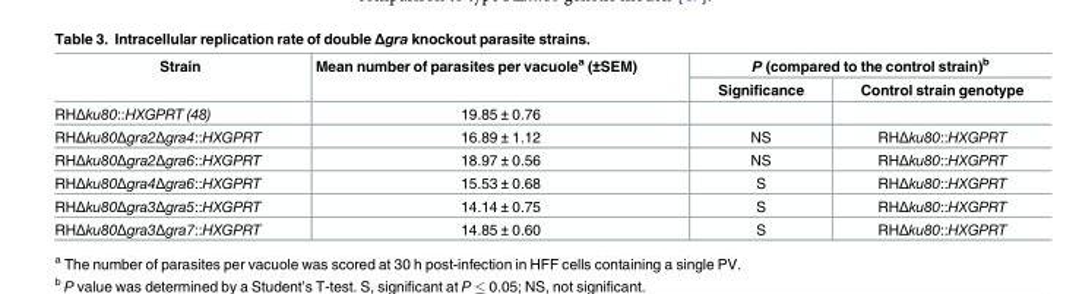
<table><thead><tr><td rowspan="2">Strain</td><td rowspan="2">Mean number of parasites per vacuole<sup>a</sup> (±SEM)</td><td colspan="2">P (compared to the control strain)<sup>b</sup></td></tr><tr><td>Significance</td><td>Control strain genotype</td></tr></thead><tbody><tr><td>RHΔku80::HXGPRT (48)</td><td>19.85 ± 0.76</td><td></td><td></td></tr><tr><td>RHΔku80Δgra2Δgra4::HXGPRT</td><td>16.89 ± 1.12</td><td>NS</td><td>RHΔku80::HXGPRT</td></tr><tr><td>RHΔku80Δgra2Δgra6::HXGPRT</td><td>18.97 ± 0.56</td><td>NS</td><td>RHΔku80::HXGPRT</td></tr><tr><td>RHΔku80Δgra4Δgra6::HXGPRT</td><td>15.53 ± 0.68</td><td>S</td><td>RHΔku80::HXGPRT</td></tr><tr><td>RHΔku80Δgra3Δgra5::HXGPRT</td><td>14.14 ± 0.75</td><td>S</td><td>RHΔku80::HXGPRT</td></tr><tr><td>RHΔku80Δgra3Δgra7::HXGPRT</td><td>14.85 ± 0.60</td><td>S</td><td>RHΔku80::HXGPRT</td></tr></tbody></table>